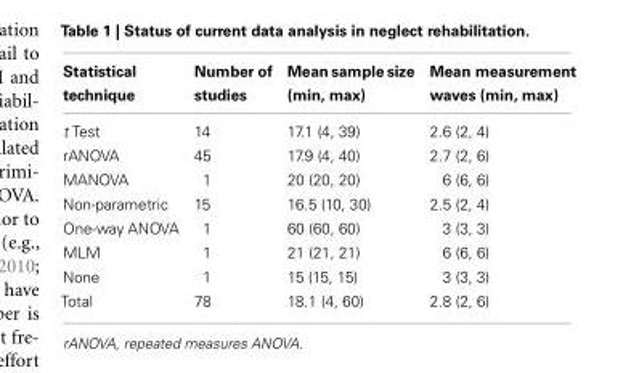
<table><thead><tr><td>Statistical technique</td><td>Number of studies</td><td>Mean sample size (min, max)</td><td>Mean measurement waves (min, max)</td></tr></thead><tbody><tr><td>t Test</td><td>14</td><td>17.1 (4, 39)</td><td>2.6 (2, 4)</td></tr><tr><td>rANOVA</td><td>45</td><td>17.9 (4, 40)</td><td>2.7 (2, 6)</td></tr><tr><td>MANOVA</td><td>1</td><td>20 (20, 20)</td><td>6 (6, 6)</td></tr><tr><td>Non-parametric</td><td>15</td><td>16.5 (10, 30)</td><td>2.5 (2, 4)</td></tr><tr><td>One-way ANOVA</td><td>1</td><td>60 (60, 60)</td><td>3 (3, 3)</td></tr><tr><td>MLM</td><td>1</td><td>21 (21, 21)</td><td>6 (6, 6)</td></tr><tr><td>None</td><td>1</td><td>15 (15, 15)</td><td>3 (3, 3)</td></tr><tr><td>Total</td><td>78</td><td>18.1 (4, 60)</td><td>2.8 (2, 6)</td></tr></tbody></table>